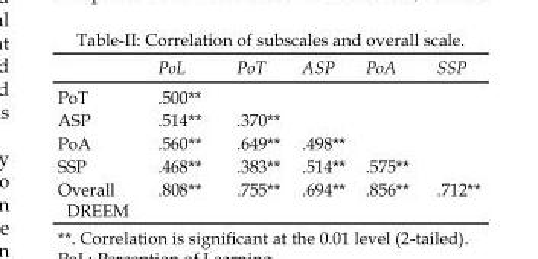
<table><thead><tr><td></td><td>PoL</td><td>PoT</td><td>ASP</td><td>PoA</td><td>SSP</td></tr></thead><tbody><tr><td>PoT</td><td>.500**</td><td></td><td></td><td></td><td></td></tr><tr><td>ASP</td><td>.514**</td><td>.370**</td><td></td><td></td><td></td></tr><tr><td>PoA</td><td>.560**</td><td>.649**</td><td>.498**</td><td></td><td></td></tr><tr><td>SSP</td><td>.468**</td><td>.383**</td><td>.514**</td><td>.575**</td><td></td></tr><tr><td>Overall</td><td>.808**</td><td>.755**</td><td>.694**</td><td>.856**</td><td>.712**</td></tr></tbody></table>